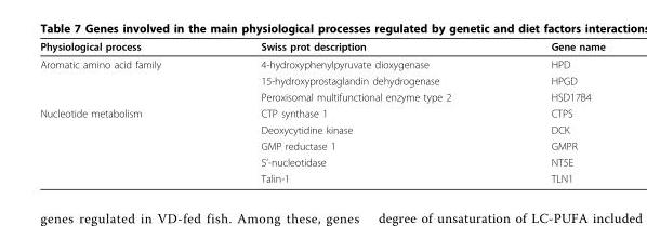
<table><thead><tr><td>Physiological process</td><td>Swiss prot description</td><td>Gene name</td></tr></thead><tbody><tr><td rowspan="3">Aromatic amino acid family</td><td>4-hydroxyphenylpyruvate dioxygenase</td><td>HPD</td></tr><tr><td>15-hydroxyprostaglandin dehydrogenase</td><td>HPGD</td></tr><tr><td>Peroxisomal multifunctional enzyme type 2</td><td>HSD17B4</td></tr><tr><td rowspan="5">Nucleotide metabolism</td><td>CTP synthase 1</td><td>CTPS</td></tr><tr><td>Deoxycytidine kinase</td><td>DCK</td></tr><tr><td>GMP reductase 1</td><td>GMPR</td></tr><tr><td>5’-nucleotidase</td><td>NT5E</td></tr><tr><td>Talin-1</td><td>TLN1</td></tr></tbody></table>